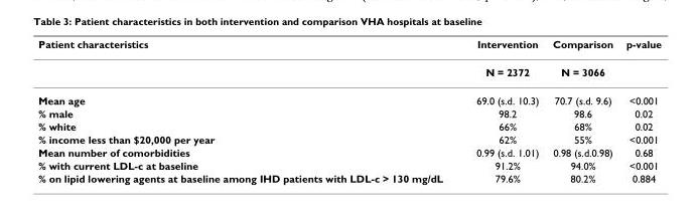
<table><thead><tr><td>Patient characteristics</td><td>Intervention</td><td>Comparison</td><td>p-value</td></tr></thead><tbody><tr><td></td><td>N = 2372</td><td>N = 3066</td><td></td></tr><tr><td>Mean age</td><td>69.0 (s.d. 10.3)</td><td>70.7 (s.d. 9.6)</td><td>&lt;0.001</td></tr><tr><td>% male</td><td>98.2</td><td>98.6</td><td>0.02</td></tr><tr><td>% white</td><td>66%</td><td>68%</td><td>0.02</td></tr><tr><td>% income less than $20,000 per year</td><td>62%</td><td>55%</td><td>&lt;0.001</td></tr><tr><td>Mean number of comorbidities</td><td>0.99 (s.d. 1.01)</td><td>0.98 (s.d.0.98)</td><td>0.68</td></tr><tr><td>% with current LDL-c at baseline</td><td>91.2%</td><td>94.0%</td><td>&lt;0.001</td></tr><tr><td>% on lipid lowering agents at baseline among IHD patients with LDL-c &gt; 130 mg/dL</td><td>79.6%</td><td>80.2%</td><td>0.884</td></tr></tbody></table>